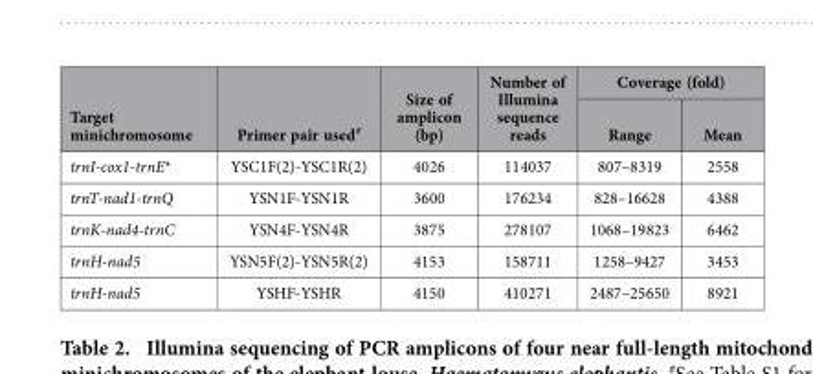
<table><thead><tr><td rowspan="2">Target minichromosome</td><td rowspan="2">Primer pair used<sup>#</sup></td><td rowspan="2">Size of amplicon (bp)</td><td rowspan="2">Number of Illumina sequence reads</td><td colspan="2">Coverage (fold)</td></tr><tr><td>Range</td><td>Mean</td></tr></thead><tbody><tr><td>trnI-cox1-trnE*</td><td>YSC1F(2)-YSC1R(2)</td><td>4026</td><td>114037</td><td>807–8319</td><td>2558</td></tr><tr><td>trnT-nad1-trnQ</td><td>YSN1F-YSN1R</td><td>3600</td><td>176234</td><td>828–16628</td><td>4388</td></tr><tr><td>trnK-nad4-trnC</td><td>YSN4F-YSN4R</td><td>3875</td><td>278107</td><td>1068–19823</td><td>6462</td></tr><tr><td>trnH-nad5</td><td>YSN5F(2)-YSN5R(2)</td><td>4153</td><td>158711</td><td>1258–9427</td><td>3453</td></tr><tr><td>trnH-nad5</td><td>YSHF-YSHR</td><td>4150</td><td>410271</td><td>2487–25650</td><td>8921</td></tr></tbody></table>